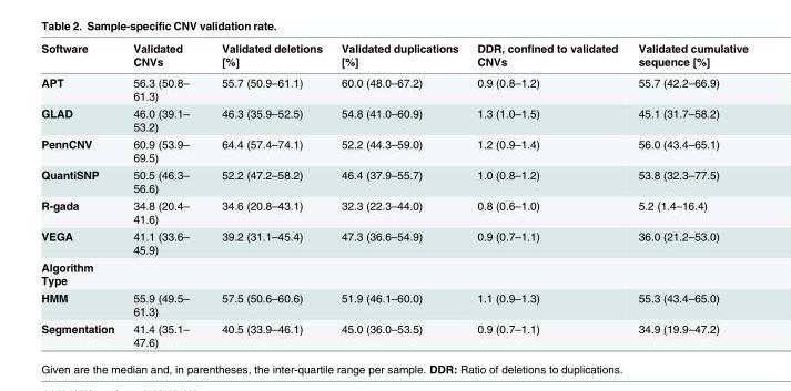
<table><thead><tr><td>Software</td><td>Validated CNVs</td><td>Validated deletions [%]</td><td>Validated duplications [%]</td><td>DDR, confined to validated CNVs</td><td>Validated cumulative sequence [%]</td></tr></thead><tbody><tr><td>APT</td><td>56.3 (50.8– 61.3)</td><td>55.7 (50.9–61.1)</td><td>60.0 (48.0–67.2)</td><td>0.9 (0.8–1.2)</td><td>55.7 (42.2–66.9)</td></tr><tr><td>GLAD</td><td>46.0 (39.1– 53.2)</td><td>46.3 (35.9–52.5)</td><td>54.8 (41.0–60.9)</td><td>1.3 (1.0–1.5)</td><td>45.1 (31.7–58.2)</td></tr><tr><td>PennCNV</td><td>60.9 (53.9– 69.5)</td><td>64.4 (57.4–74.1)</td><td>52.2 (44.3–59.0)</td><td>1.2 (0.9–1.4)</td><td>56.0 (43.4–65.1)</td></tr><tr><td>QuantiSNP</td><td>50.5 (46.3– 56.6)</td><td>52.2 (47.2–58.2)</td><td>46.4 (37.9–55.7)</td><td>1.0 (0.8–1.2)</td><td>53.8 (32.3–77.5)</td></tr><tr><td>R-gada</td><td>34.8 (20.4– 41.6)</td><td>34.6 (20.8–43.1)</td><td>32.3 (22.3–44.0)</td><td>0.8 (0.6–1.0)</td><td>5.2 (1.4–16.4)</td></tr><tr><td>VEGA</td><td>41.1 (33.6– 45.9)</td><td>39.2 (31.1–45.4)</td><td>47.3 (36.6–54.9)</td><td>0.9 (0.7–1.1)</td><td>36.0 (21.2–53.0)</td></tr><tr><td colspan="6">Algorithm Type</td></tr><tr><td>HMM</td><td>55.9 (49.5– 61.3)</td><td>57.5 (50.6–60.6)</td><td>51.9 (46.1–60.0)</td><td>1.1 (0.9–1.3)</td><td>55.3 (43.4–65.0)</td></tr><tr><td>Segmentation</td><td>41.4 (35.1– 47.6)</td><td>40.5 (33.9–46.1)</td><td>45.0 (36.0–53.5)</td><td>0.9 (0.7–1.1)</td><td>34.9 (19.9–47.2)</td></tr></tbody></table>